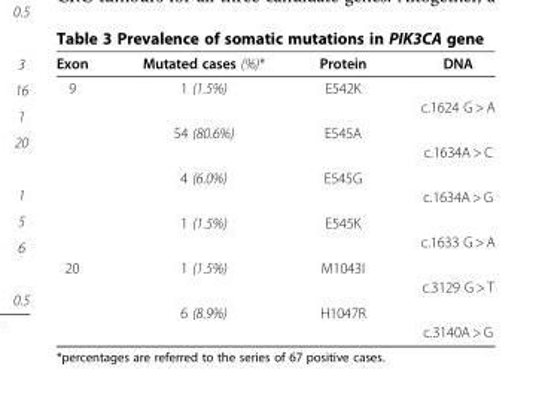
<table><thead><tr><td>Exon</td><td>Mutated cases (%)*</td><td>Protein</td><td>DNA</td></tr></thead><tbody><tr><td rowspan="4">9</td><td>1 (1.5%)</td><td>E542K</td><td>c.1624 G &gt; A</td></tr><tr><td>54 (80.6%)</td><td>E545A</td><td>c.1634A &gt; C</td></tr><tr><td>4 (6.0%)</td><td>E545G</td><td>c.1634A &gt; G</td></tr><tr><td>1 (1.5%)</td><td>E545K</td><td>c.1633 G &gt; A</td></tr><tr><td rowspan="2">20</td><td>1 (1.5%)</td><td>M1043I</td><td>c.3129 G &gt; T</td></tr><tr><td>6 (8.9%)</td><td>H1047R</td><td>c.3140A &gt; G</td></tr></tbody></table>